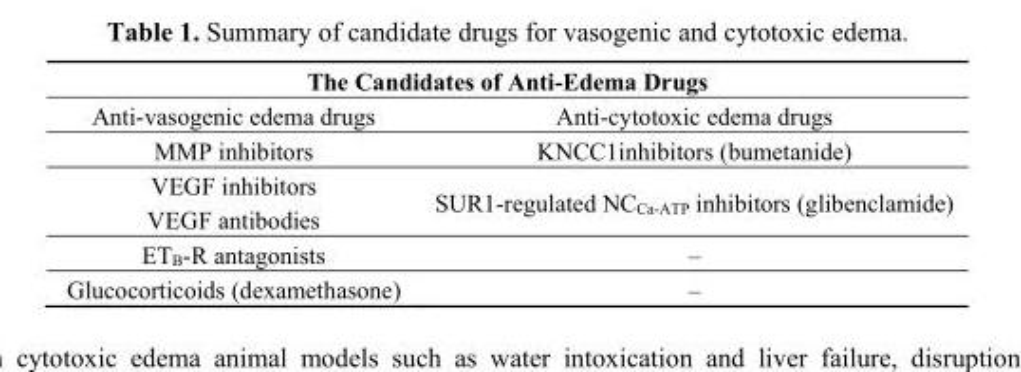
<table><thead><tr><td colspan="2">The Candidates of Anti-Edema Drugs</td></tr><tr><td>Anti-vasogenic edema drugs</td><td>Anti-cytotoxic edema drugs</td></tr></thead><tbody><tr><td>MMP inhibitors</td><td>KNCC1inhibitors (bumetanide)</td></tr><tr><td>VEGF inhibitors VEGF antibodies</td><td>SUR1-regulated NC<sub>Ca-ATP</sub> inhibitors (glibenclamide)</td></tr><tr><td>ET<sub>B</sub>-R antagonists</td><td>–</td></tr><tr><td>Glucocorticoids (dexamethasone)</td><td>–</td></tr></tbody></table>